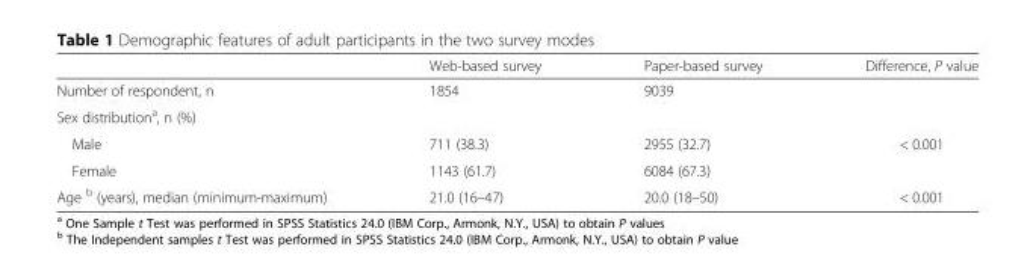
<table><thead><tr><td></td><td>Web-based survey</td><td>Paper-based survey</td><td>Difference, P value</td></tr></thead><tbody><tr><td>Number of respondent, n</td><td>1854</td><td>9039</td><td></td></tr><tr><td colspan="4">Sex distribution<sup>a</sup>, n (%)</td></tr><tr><td>Male</td><td>711 (38.3)</td><td>2955 (32.7)</td><td>&lt; 0.001</td></tr><tr><td>Female</td><td>1143 (61.7)</td><td>6084 (67.3)</td><td></td></tr><tr><td>Age <sup>b</sup> (years), median (minimum-maximum)</td><td>21.0 (16–47)</td><td>20.0 (18–50)</td><td>&lt; 0.001</td></tr></tbody></table>